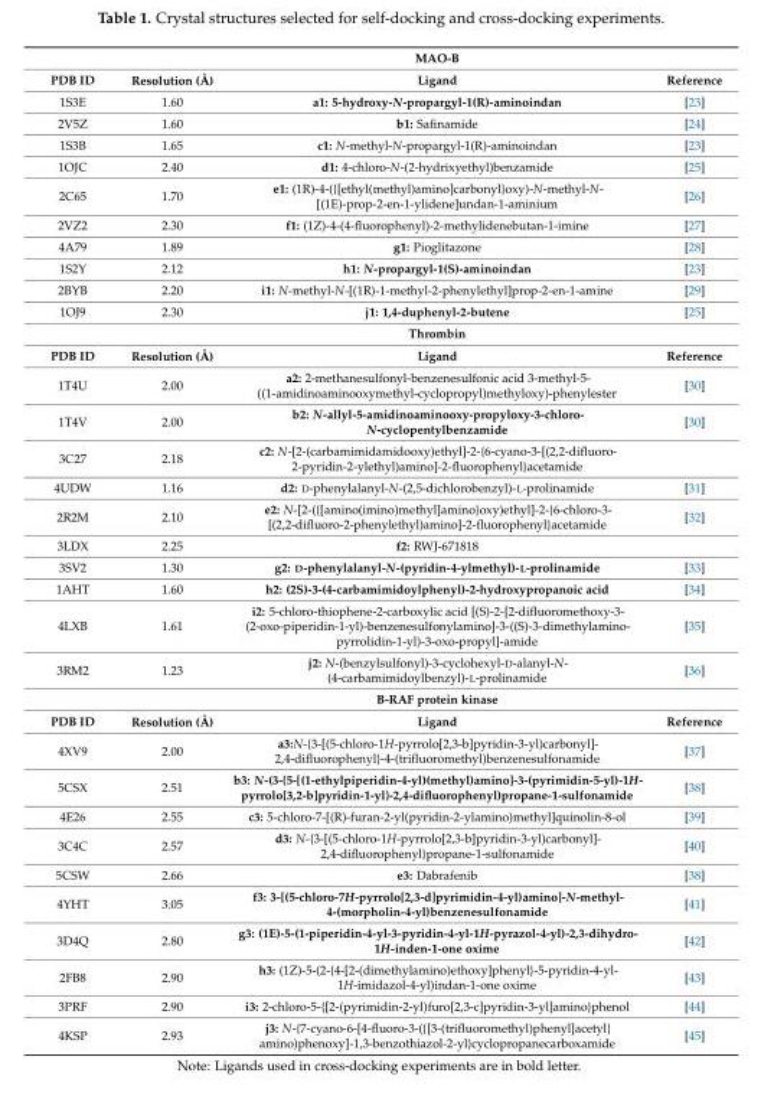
<table><thead><tr><td rowspan="2">PDB ID</td><td rowspan="2">Resolution (Å)</td><td rowspan="2">MAO-B Ligand</td><td rowspan="2">Reference</td></tr><tr></tr></thead><tbody><tr><td>1S3E</td><td>1.60</td><td>a1: 5-hydroxy-N-propargyl-1(R)-aminoindan</td><td>[23]</td></tr><tr><td>2V5Z</td><td>1.60</td><td>b1: Safinamide</td><td>[24]</td></tr><tr><td>1S3B</td><td>1.65</td><td>c1: N-methyl-N-propargyl-1(R)-aminoindan</td><td>[23]</td></tr><tr><td>1OJC</td><td>2.40</td><td>d1: 4-chloro-N-(2-hydrixyethyl)benzamide</td><td>[25]</td></tr><tr><td>2C65</td><td>1.70</td><td>e1: (1R)-4-({[ethyl(methyl)amino]carbonyl}oxy)-N-methyl-N- [(1E)-prop-2-en-1-ylidene]undan-1-aminium</td><td>[26]</td></tr><tr><td>2VZ2</td><td>2.30</td><td>f1: (1Z)-4-(4-fluorophenyl)-2-methylidenebutan-1-imine</td><td>[27]</td></tr><tr><td>4A79</td><td>1.89</td><td>g1: Pioglitazone</td><td>[28]</td></tr><tr><td>1S2Y</td><td>2.12</td><td>h1: N-propargyl-1(S)-aminoindan</td><td>[23]</td></tr><tr><td>2BYB</td><td>2.20</td><td>i1: N-methyl-N-[(1R)-1-methyl-2-phenylethyl]prop-2-en-1-amine</td><td>[29]</td></tr><tr><td rowspan="2">1OJ9</td><td>2.30</td><td>j1: 1,4-duphenyl-2-butene</td><td>[25]</td></tr><tr><td></td><td>Thrombin</td><td></td></tr><tr><td>PDB ID</td><td>Resolution (Å)</td><td>Ligand</td><td>Reference</td></tr><tr><td>1T4U</td><td>2.00</td><td>a2: 2-methanesulfonyl-benzenesulfonic acid 3-methyl-5- ((1-amidinoaminooxymethyl-cyclopropyl)methyloxy)-phenylester</td><td>[30]</td></tr><tr><td>1T4V</td><td>2.00</td><td>b2: N-allyl-5-amidinoaminooxy-propyloxy-3-chloro- N-cyclopentylbenzamide</td><td>[30]</td></tr><tr><td>3C27</td><td>2.18</td><td>c2: N-[2-(carbamimidamidooxy)ethyl]-2-{6-cyano-3-[(2,2-difluoro- 2-pyridin-2-ylethyl)amino]-2-fluorophenyl}acetamide</td><td></td></tr><tr><td>4UDW</td><td>1.16</td><td>d2: D-phenylalanyl-N-(2,5-dichlorobenzyl)-L-prolinamide</td><td>[31]</td></tr><tr><td>2R2M</td><td>2.10</td><td>e2: N-[2-({[amino(imino)methyl]amino}oxy)ethyl]-2-{6-chloro-3- [(2,2-difluoro-2-phenylethyl)amino]-2-fluorophenyl}acetamide</td><td>[32]</td></tr><tr><td>3LDX</td><td>2.25</td><td>f2: RWJ-671818</td><td></td></tr><tr><td>3SV2</td><td>1.30</td><td>g2: D-phenylalanyl-N-(pyridin-4-ylmethyl)-L-prolinamide</td><td>[33]</td></tr><tr><td>1AHT</td><td>1.60</td><td>h2: (2S)-3-(4-carbamimidoylphenyl)-2-hydroxypropanoic acid</td><td>[34]</td></tr><tr><td>4LXB</td><td>1.61</td><td>i2: 5-chloro-thiophene-2-carboxylic acid [(S)-2-[2-difluoromethoxy-3- (2-oxo-piperidin-1-yl)-benzenesulfonylamino]-3-((S)-3-dimethylamino- pyrrolidin-1-yl)-3-oxo-propyl]-amide</td><td>[35]</td></tr><tr><td rowspan="2">3RM2</td><td>1.23</td><td>j2: N-(benzylsulfonyl)-3-cyclohexyl-D-alanyl-N- (4-carbamimidoylbenzyl)-L-prolinamide</td><td>[36]</td></tr><tr><td></td><td>B-RAF protein kinase</td><td></td></tr><tr><td>PDB ID</td><td>Resolution (Å)</td><td>Ligand</td><td>Reference</td></tr><tr><td>4XV9</td><td>2.00</td><td>a3:N-{3-[(5-chloro-1H-pyrrolo[2,3-b]pyridin-3-yl)carbonyl]- 2,4-difluorophenyl}-4-(trifluoromethyl)benzenesulfonamide</td><td>[37]</td></tr><tr><td>5CSX</td><td>2.51</td><td>b3: N-(3-{5-[(1-ethylpiperidin-4-yl)(methyl)amino]-3-(pyrimidin-5-yl)-1H- pyrrolo[3,2-b]pyridin-1-yl}-2,4-difluorophenyl)propane-1-sulfonamide</td><td>[38]</td></tr><tr><td>4E26</td><td>2.55</td><td>c3: 5-chloro-7-[(R)-furan-2-yl(pyridin-2-ylamino)methyl]quinolin-8-ol</td><td>[39]</td></tr><tr><td>3C4C</td><td>2.57</td><td>d3: N-{3-[(5-chloro-1H-pyrrolo[2,3-b]pyridin-3-yl)carbonyl]- 2,4-difluorophenyl}propane-1-sulfonamide</td><td>[40]</td></tr><tr><td>5CSW</td><td>2.66</td><td>e3: Dabrafenib</td><td>[38]</td></tr><tr><td>4YHT</td><td>3.05</td><td>f3: 3-[(5-chloro-7H-pyrrolo[2,3-d]pyrimidin-4-yl)amino]-N-methyl- 4-(morpholin-4-yl)benzenesulfonamide</td><td>[41]</td></tr><tr><td>3D4Q</td><td>2.80</td><td>g3: (1E)-5-(1-piperidin-4-yl-3-pyridin-4-yl-1H-pyrazol-4-yl)-2,3-dihydro- 1H-inden-1-one oxime</td><td>[42]</td></tr><tr><td>2FB8</td><td>2.90</td><td>h3: (1Z)-5-(2-{4-[2-(dimethylamino)ethoxy]phenyl}-5-pyridin-4-yl- 1H-imidazol-4-yl)indan-1-one oxime</td><td>[43]</td></tr><tr><td>3PRF</td><td>2.90</td><td>i3: 2-chloro-5-{[2-(pyrimidin-2-yl)furo[2,3-c]pyridin-3-yl]amino}phenol</td><td>[44]</td></tr><tr><td>4KSP</td><td>2.93</td><td>j3: N-{7-cyano-6-[4-fluoro-3-({[3-(trifluoromethyl)phenyl]acetyl} amino)phenoxy]-1,3-benzothiazol-2-yl}cyclopropanecarboxamide</td><td>[45]</td></tr></tbody></table>